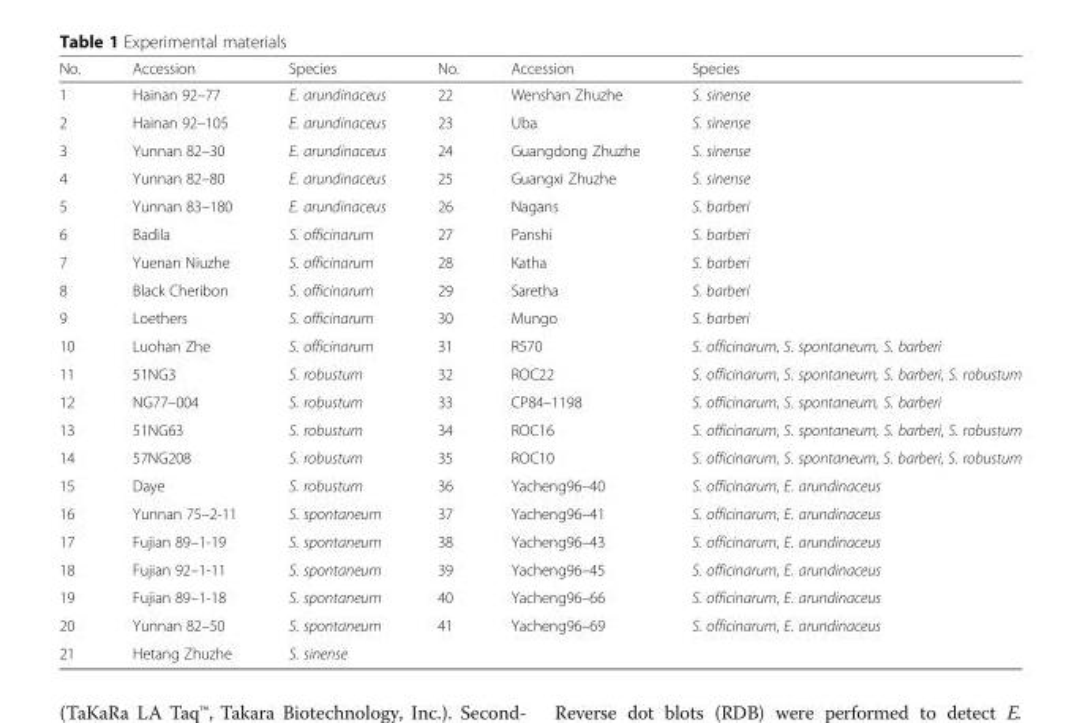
<table><thead><tr><td>No.</td><td>Accession</td><td>Species</td><td>No.</td><td>Accession</td><td>Species</td></tr></thead><tbody><tr><td>1</td><td>Hainan 92–77</td><td>E. arundinaceus</td><td>22</td><td>Wenshan Zhuzhe</td><td>S. sinense</td></tr><tr><td>2</td><td>Hainan 92–105</td><td>E. arundinaceus</td><td>23</td><td>Uba</td><td>S. sinense</td></tr><tr><td>3</td><td>Yunnan 82–30</td><td>E. arundinaceus</td><td>24</td><td>Guangdong Zhuzhe</td><td>S. sinense</td></tr><tr><td>4</td><td>Yunnan 82–80</td><td>E. arundinaceus</td><td>25</td><td>Guangxi Zhuzhe</td><td>S. sinense</td></tr><tr><td>5</td><td>Yunnan 83–180</td><td>E. arundinaceus</td><td>26</td><td>Nagans</td><td>S. barberi</td></tr><tr><td>6</td><td>Badila</td><td>S. officinarum</td><td>27</td><td>Panshi</td><td>S. barberi</td></tr><tr><td>7</td><td>Yuenan Niuzhe</td><td>S. officinarum</td><td>28</td><td>Katha</td><td>S. barberi</td></tr><tr><td>8</td><td>Black Cheribon</td><td>S. officinarum</td><td>29</td><td>Saretha</td><td>S. barberi</td></tr><tr><td>9</td><td>Loethers</td><td>S. officinarum</td><td>30</td><td>Mungo</td><td>S. barberi</td></tr><tr><td>10</td><td>Luohan Zhe</td><td>S. officinarum</td><td>31</td><td>R570</td><td>S. officinarum, S. spontaneum, S. barberi</td></tr><tr><td>11</td><td>51NG3</td><td>S. robustum</td><td>32</td><td>ROC22</td><td>S. officinarum, S. spontaneum, S. barberi, S. robustum</td></tr><tr><td>12</td><td>NG77–004</td><td>S. robustum</td><td>33</td><td>CP84–1198</td><td>S. officinarum, S. spontaneum, S. barberi</td></tr><tr><td>13</td><td>51NG63</td><td>S. robustum</td><td>34</td><td>ROC16</td><td>S. officinarum, S. spontaneum, S. barberi, S. robustum</td></tr><tr><td>14</td><td>57NG208</td><td>S. robustum</td><td>35</td><td>ROC10</td><td>S. officinarum, S. spontaneum, S. barberi, S. robustum</td></tr><tr><td>15</td><td>Daye</td><td>S. robustum</td><td>36</td><td>Yacheng96–40</td><td>S. officinarum, E. arundinaceus</td></tr><tr><td>16</td><td>Yunnan 75–2-11</td><td>S. spontaneum</td><td>37</td><td>Yacheng96–41</td><td>S. officinarum, E. arundinaceus</td></tr><tr><td>17</td><td>Fujian 89–1-19</td><td>S. spontaneum</td><td>38</td><td>Yacheng96–43</td><td>S. officinarum, E. arundinaceus</td></tr><tr><td>18</td><td>Fujian 92–1-11</td><td>S. spontaneum</td><td>39</td><td>Yacheng96–45</td><td>S. officinarum, E. arundinaceus</td></tr><tr><td>19</td><td>Fujian 89–1-18</td><td>S. spontaneum</td><td>40</td><td>Yacheng96–66</td><td>S. officinarum, E. arundinaceus</td></tr><tr><td>20</td><td>Yunnan 82–50</td><td>S. spontaneum</td><td>41</td><td>Yacheng96–69</td><td>S. officinarum, E. arundinaceus</td></tr><tr><td>21</td><td>Hetang Zhuzhe</td><td>S. sinense</td><td></td><td></td><td></td></tr></tbody></table>